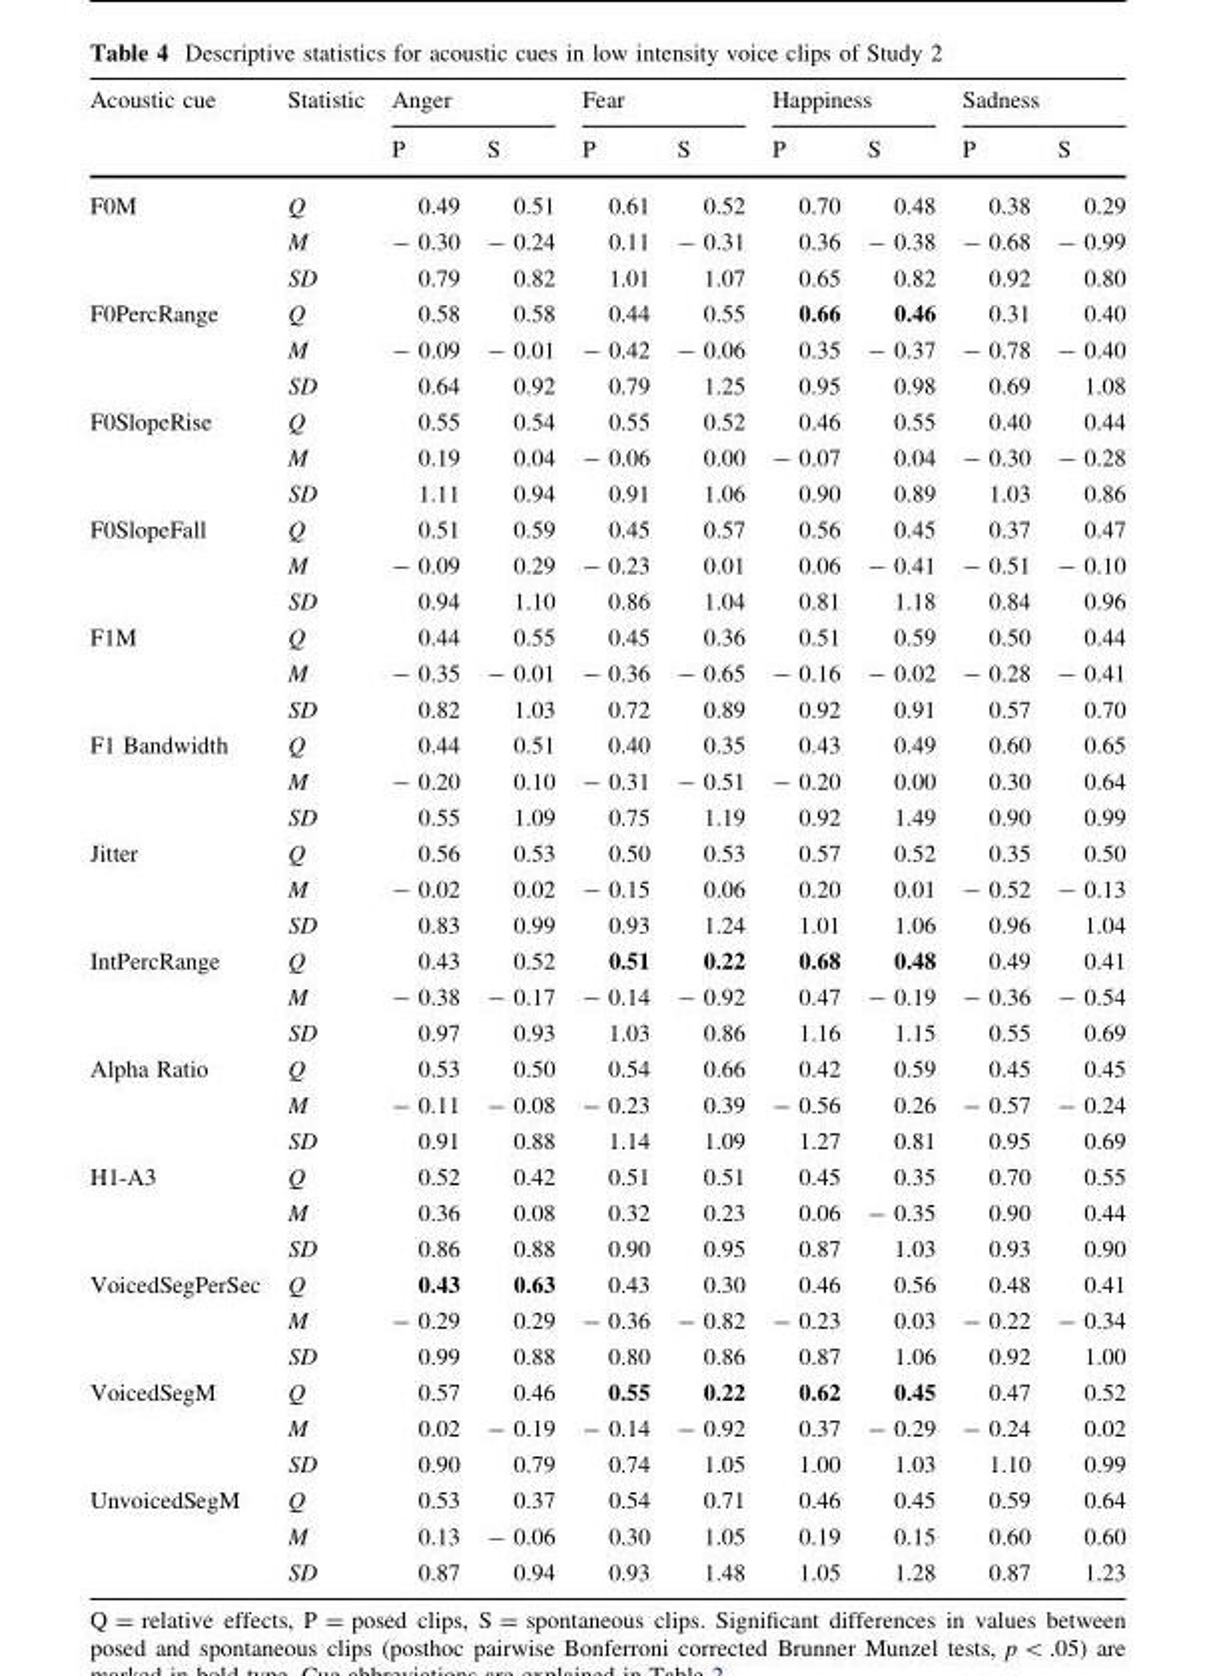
<table><thead><tr><td rowspan="2">Acoustic cue</td><td rowspan="2">Statistic</td><td colspan="2">Anger</td><td colspan="2">Fear</td><td colspan="2">Happiness</td><td colspan="2">Sadness</td></tr><tr><td>P</td><td>S</td><td>P</td><td>S</td><td>P</td><td>S</td><td>P</td><td>S</td></tr></thead><tbody><tr><td rowspan="3">F0M</td><td>Q</td><td>0.49</td><td>0.51</td><td>0.61</td><td>0.52</td><td>0.70</td><td>0.48</td><td>0.38</td><td>0.29</td></tr><tr><td>M</td><td>- 0.30</td><td>- 0.24</td><td>0.11</td><td>- 0.31</td><td>0.36</td><td>- 0.38</td><td>- 0.68</td><td>- 0.99</td></tr><tr><td>SD</td><td>0.79</td><td>0.82</td><td>1.01</td><td>1.07</td><td>0.65</td><td>0.82</td><td>0.92</td><td>0.80</td></tr><tr><td rowspan="3">F0PercRange</td><td>Q</td><td>0.58</td><td>0.58</td><td>0.44</td><td>0.55</td><td>0.66</td><td>0.46</td><td>0.31</td><td>0.40</td></tr><tr><td>M</td><td>- 0.09</td><td>- 0.01</td><td>- 0.42</td><td>- 0.06</td><td>0.35</td><td>- 0.37</td><td>- 0.78</td><td>- 0.40</td></tr><tr><td>SD</td><td>0.64</td><td>0.92</td><td>0.79</td><td>1.25</td><td>0.95</td><td>0.98</td><td>0.69</td><td>1.08</td></tr><tr><td rowspan="3">F0SlopeRise</td><td>Q</td><td>0.55</td><td>0.54</td><td>0.55</td><td>0.52</td><td>0.46</td><td>0.55</td><td>0.40</td><td>0.44</td></tr><tr><td>M</td><td>0.19</td><td>0.04</td><td>- 0.06</td><td>0.00</td><td>- 0.07</td><td>0.04</td><td>- 0.30</td><td>- 0.28</td></tr><tr><td>SD</td><td>1.11</td><td>0.94</td><td>0.91</td><td>1.06</td><td>0.90</td><td>0.89</td><td>1.03</td><td>0.86</td></tr><tr><td rowspan="3">F0SlopeFall</td><td>Q</td><td>0.51</td><td>0.59</td><td>0.45</td><td>0.57</td><td>0.56</td><td>0.45</td><td>0.37</td><td>0.47</td></tr><tr><td>M</td><td>- 0.09</td><td>0.29</td><td>- 0.23</td><td>0.01</td><td>0.06</td><td>- 0.41</td><td>- 0.51</td><td>- 0.10</td></tr><tr><td>SD</td><td>0.94</td><td>1.10</td><td>0.86</td><td>1.04</td><td>0.81</td><td>1.18</td><td>0.84</td><td>0.96</td></tr><tr><td rowspan="3">F1M</td><td>Q</td><td>0.44</td><td>0.55</td><td>0.45</td><td>0.36</td><td>0.51</td><td>0.59</td><td>0.50</td><td>0.44</td></tr><tr><td>M</td><td>- 0.35</td><td>- 0.01</td><td>- 0.36</td><td>- 0.65</td><td>- 0.16</td><td>- 0.02</td><td>- 0.28</td><td>- 0.41</td></tr><tr><td>SD</td><td>0.82</td><td>1.03</td><td>0.72</td><td>0.89</td><td>0.92</td><td>0.91</td><td>0.57</td><td>0.70</td></tr><tr><td rowspan="3">F1 Bandwidth</td><td>Q</td><td>0.44</td><td>0.51</td><td>0.40</td><td>0.35</td><td>0.43</td><td>0.49</td><td>0.60</td><td>0.65</td></tr><tr><td>M</td><td>- 0.20</td><td>0.10</td><td>- 0.31</td><td>- 0.51</td><td>- 0.20</td><td>0.00</td><td>0.30</td><td>0.64</td></tr><tr><td>SD</td><td>0.55</td><td>1.09</td><td>0.75</td><td>1.19</td><td>0.92</td><td>1.49</td><td>0.90</td><td>0.99</td></tr><tr><td rowspan="3">Jitter</td><td>Q</td><td>0.56</td><td>0.53</td><td>0.50</td><td>0.53</td><td>0.57</td><td>0.52</td><td>0.35</td><td>0.50</td></tr><tr><td>M</td><td>- 0.02</td><td>0.02</td><td>- 0.15</td><td>0.06</td><td>0.20</td><td>0.01</td><td>- 0.52</td><td>- 0.13</td></tr><tr><td>SD</td><td>0.83</td><td>0.99</td><td>0.93</td><td>1.24</td><td>1.01</td><td>1.06</td><td>0.96</td><td>1.04</td></tr><tr><td rowspan="3">IntPercRange</td><td>Q</td><td>0.43</td><td>0.52</td><td>0.51</td><td>0.22</td><td>0.68</td><td>0.48</td><td>0.49</td><td>0.41</td></tr><tr><td>M</td><td>- 0.38</td><td>- 0.17</td><td>- 0.14</td><td>- 0.92</td><td>0.47</td><td>- 0.19</td><td>- 0.36</td><td>- 0.54</td></tr><tr><td>SD</td><td>0.97</td><td>0.93</td><td>1.03</td><td>0.86</td><td>1.16</td><td>1.15</td><td>0.55</td><td>0.69</td></tr><tr><td rowspan="3">Alpha Ratio</td><td>Q</td><td>0.53</td><td>0.50</td><td>0.54</td><td>0.66</td><td>0.42</td><td>0.59</td><td>0.45</td><td>0.45</td></tr><tr><td>M</td><td>- 0.11</td><td>- 0.08</td><td>- 0.23</td><td>0.39</td><td>- 0.56</td><td>0.26</td><td>- 0.57</td><td>- 0.24</td></tr><tr><td>SD</td><td>0.91</td><td>0.88</td><td>1.14</td><td>1.09</td><td>1.27</td><td>0.81</td><td>0.95</td><td>0.69</td></tr><tr><td rowspan="3">H1-A3</td><td>Q</td><td>0.52</td><td>0.42</td><td>0.51</td><td>0.51</td><td>0.45</td><td>0.35</td><td>0.70</td><td>0.55</td></tr><tr><td>M</td><td>0.36</td><td>0.08</td><td>0.32</td><td>0.23</td><td>0.06</td><td>- 0.35</td><td>0.90</td><td>0.44</td></tr><tr><td>SD</td><td>0.86</td><td>0.88</td><td>0.90</td><td>0.95</td><td>0.87</td><td>1.03</td><td>0.93</td><td>0.90</td></tr><tr><td rowspan="3">VoicedSegPerSec</td><td>Q</td><td>0.43</td><td>0.63</td><td>0.43</td><td>0.30</td><td>0.46</td><td>0.56</td><td>0.48</td><td>0.41</td></tr><tr><td>M</td><td>- 0.29</td><td>0.29</td><td>- 0.36</td><td>- 0.82</td><td>- 0.23</td><td>0.03</td><td>- 0.22</td><td>- 0.34</td></tr><tr><td>SD</td><td>0.99</td><td>0.88</td><td>0.80</td><td>0.86</td><td>0.87</td><td>1.06</td><td>0.92</td><td>1.00</td></tr><tr><td rowspan="3">VoicedSegM</td><td>Q</td><td>0.57</td><td>0.46</td><td>0.55</td><td>0.22</td><td>0.62</td><td>0.45</td><td>0.47</td><td>0.52</td></tr><tr><td>M</td><td>0.02</td><td>- 0.19</td><td>- 0.14</td><td>- 0.92</td><td>0.37</td><td>- 0.29</td><td>- 0.24</td><td>0.02</td></tr><tr><td>SD</td><td>0.90</td><td>0.79</td><td>0.74</td><td>1.05</td><td>1.00</td><td>1.03</td><td>1.10</td><td>0.99</td></tr><tr><td rowspan="3">UnvoicedSegM</td><td>Q</td><td>0.53</td><td>0.37</td><td>0.54</td><td>0.71</td><td>0.46</td><td>0.45</td><td>0.59</td><td>0.64</td></tr><tr><td>M</td><td>0.13</td><td>- 0.06</td><td>0.30</td><td>1.05</td><td>0.19</td><td>0.15</td><td>0.60</td><td>0.60</td></tr><tr><td>SD</td><td>0.87</td><td>0.94</td><td>0.93</td><td>1.48</td><td>1.05</td><td>1.28</td><td>0.87</td><td>1.23</td></tr></tbody></table>